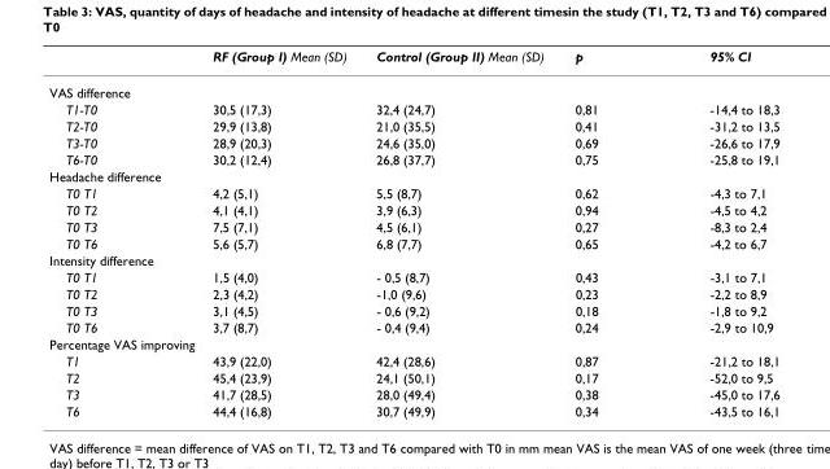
<table><thead><tr><td></td><td>RF (Group I) Mean (SD)</td><td>Control (Group II) Mean (SD)</td><td>p</td><td>95% CI</td></tr></thead><tbody><tr><td colspan="5">VAS difference</td></tr><tr><td>T1-T0</td><td>30,5 (17,3)</td><td>32,4 (24,7)</td><td>0,81</td><td>-14,4 to 18,3</td></tr><tr><td>T2-T0</td><td>29,9 (13,8)</td><td>21,0 (35,5)</td><td>0,41</td><td>-31,2 to 13,5</td></tr><tr><td>T3-T0</td><td>28,9 (20,3)</td><td>24,6 (35,0)</td><td>0,69</td><td>-26,6 to 17,9</td></tr><tr><td>T6-T0</td><td>30,2 (12,4)</td><td>26,8 (37,7)</td><td>0,75</td><td>-25,8 to 19,1</td></tr><tr><td colspan="5">Headache difference</td></tr><tr><td>T0 T1</td><td>4,2 (5,1)</td><td>5,5 (8,7)</td><td>0,62</td><td>-4,3 to 7,1</td></tr><tr><td>T0 T2</td><td>4,1 (4,1)</td><td>3,9 (6,3)</td><td>0,94</td><td>-4,5 to 4,2</td></tr><tr><td>T0 T3</td><td>7,5 (7,1)</td><td>4,5 (6,1)</td><td>0,27</td><td>-8,3 to 2,4</td></tr><tr><td>T0 T6</td><td>5,6 (5,7)</td><td>6,8 (7,7)</td><td>0,65</td><td>-4,2 to 6,7</td></tr><tr><td colspan="5">Intensity difference</td></tr><tr><td>T0 T1</td><td>1,5 (4,0)</td><td>- 0,5 (8,7)</td><td>0,43</td><td>-3,1 to 7,1</td></tr><tr><td>T0 T2</td><td>2,3 (4,2)</td><td>-1,0 (9,6)</td><td>0,23</td><td>-2,2 to 8,9</td></tr><tr><td>T0 T3</td><td>3,1 (4,5)</td><td>- 0,6 (9,2)</td><td>0,18</td><td>-1,8 to 9,2</td></tr><tr><td>T0 T6</td><td>3,7 (8,7)</td><td>- 0,4 (9,4)</td><td>0,24</td><td>-2,9 to 10,9</td></tr><tr><td colspan="5">Percentage VAS improving</td></tr><tr><td>T1</td><td>43,9 (22,0)</td><td>42,4 (28,6)</td><td>0,87</td><td>-21,2 to 18,1</td></tr><tr><td>T2</td><td>45,4 (23,9)</td><td>24,1 (50,1)</td><td>0,17</td><td>-52,0 to 9,5</td></tr><tr><td>T3</td><td>41,7 (28,5)</td><td>28,0 (49,4)</td><td>0,38</td><td>-45,0 to 17,6</td></tr><tr><td>T6</td><td>44,4 (16,8)</td><td>30,7 (49,9)</td><td>0,34</td><td>-43,5 to 16,1</td></tr></tbody></table>